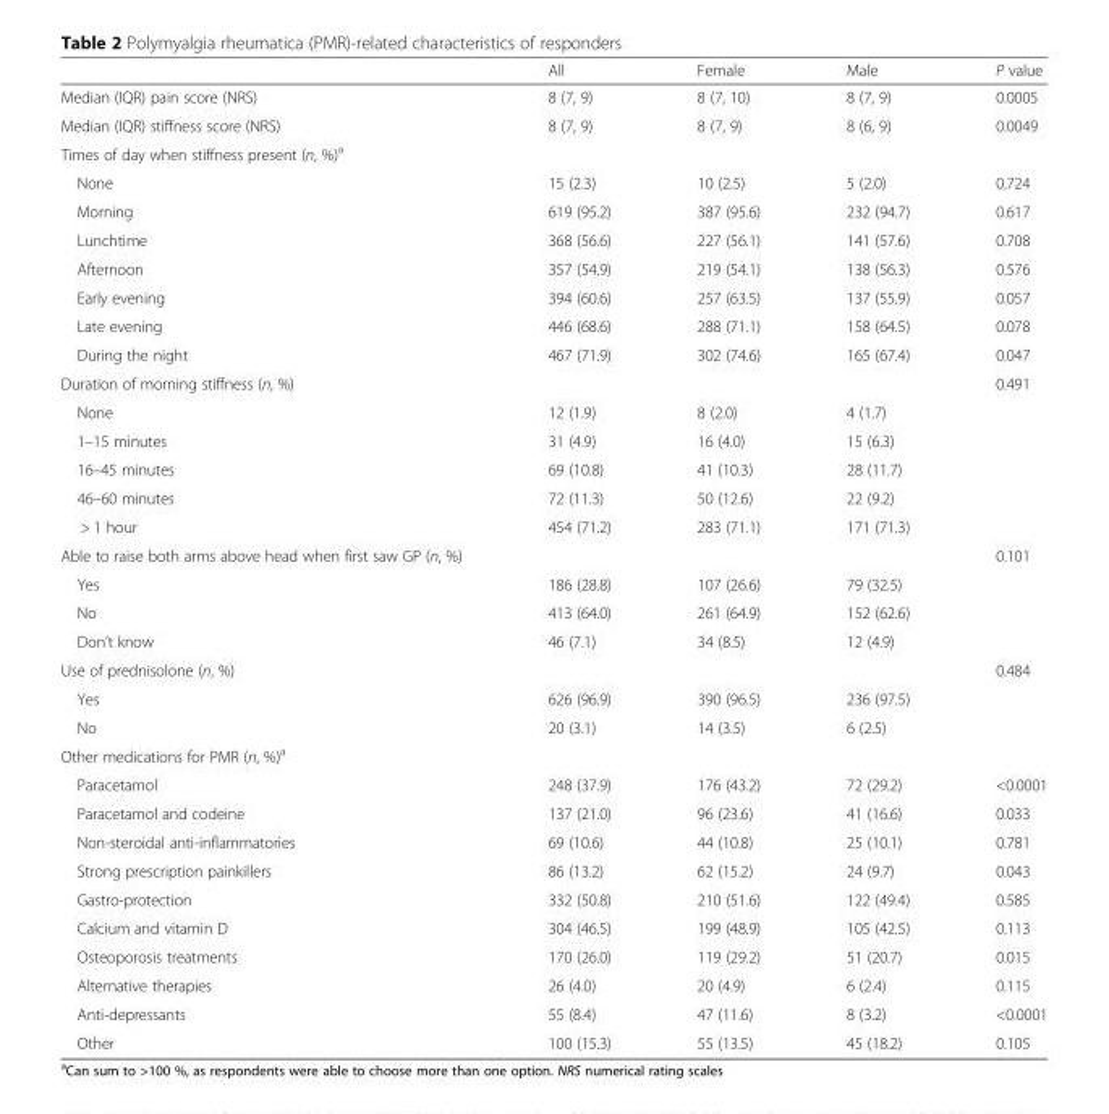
<table><thead><tr><td></td><td>All</td><td>Female</td><td>Male</td><td>P value</td></tr></thead><tbody><tr><td>Median (IQR) pain score (NRS)</td><td>8 (7, 9)</td><td>8 (7, 10)</td><td>8 (7, 9)</td><td>0.0005</td></tr><tr><td>Median (IQR) stiffness score (NRS)</td><td>8 (7, 9)</td><td>8 (7, 9)</td><td>8 (6, 9)</td><td>0.0049</td></tr><tr><td colspan="5">Times of day when stiffness present (n, %)<sup>a</sup></td></tr><tr><td>None</td><td>15 (2.3)</td><td>10 (2.5)</td><td>5 (2.0)</td><td>0.724</td></tr><tr><td>Morning</td><td>619 (95.2)</td><td>387 (95.6)</td><td>232 (94.7)</td><td>0.617</td></tr><tr><td>Lunchtime</td><td>368 (56.6)</td><td>227 (56.1)</td><td>141 (57.6)</td><td>0.708</td></tr><tr><td>Afternoon</td><td>357 (54.9)</td><td>219 (54.1)</td><td>138 (56.3)</td><td>0.576</td></tr><tr><td>Early evening</td><td>394 (60.6)</td><td>257 (63.5)</td><td>137 (55.9)</td><td>0.057</td></tr><tr><td>Late evening</td><td>446 (68.6)</td><td>288 (71.1)</td><td>158 (64.5)</td><td>0.078</td></tr><tr><td>During the night</td><td>467 (71.9)</td><td>302 (74.6)</td><td>165 (67.4)</td><td>0.047</td></tr><tr><td>Duration of morning stiffness (n, %)</td><td></td><td></td><td></td><td>0.491</td></tr><tr><td>None</td><td>12 (1.9)</td><td>8 (2.0)</td><td>4 (1.7)</td><td></td></tr><tr><td>1–15 minutes</td><td>31 (4.9)</td><td>16 (4.0)</td><td>15 (6.3)</td><td></td></tr><tr><td>16–45 minutes</td><td>69 (10.8)</td><td>41 (10.3)</td><td>28 (11.7)</td><td></td></tr><tr><td>46–60 minutes</td><td>72 (11.3)</td><td>50 (12.6)</td><td>22 (9.2)</td><td></td></tr><tr><td>&gt; 1 hour</td><td>454 (71.2)</td><td>283 (71.1)</td><td>171 (71.3)</td><td></td></tr><tr><td>Able to raise both arms above head when first saw GP (n, %)</td><td></td><td></td><td></td><td>0.101</td></tr><tr><td>Yes</td><td>186 (28.8)</td><td>107 (26.6)</td><td>79 (32.5)</td><td></td></tr><tr><td>No</td><td>413 (64.0)</td><td>261 (64.9)</td><td>152 (62.6)</td><td></td></tr><tr><td>Don’t know</td><td>46 (7.1)</td><td>34 (8.5)</td><td>12 (4.9)</td><td></td></tr><tr><td>Use of prednisolone (n, %)</td><td></td><td></td><td></td><td>0.484</td></tr><tr><td>Yes</td><td>626 (96.9)</td><td>390 (96.5)</td><td>236 (97.5)</td><td></td></tr><tr><td>No</td><td>20 (3.1)</td><td>14 (3.5)</td><td>6 (2.5)</td><td></td></tr><tr><td colspan="5">Other medications for PMR (n, %)<sup>a</sup></td></tr><tr><td>Paracetamol</td><td>248 (37.9)</td><td>176 (43.2)</td><td>72 (29.2)</td><td>&lt;0.0001</td></tr><tr><td>Paracetamol and codeine</td><td>137 (21.0)</td><td>96 (23.6)</td><td>41 (16.6)</td><td>0.033</td></tr><tr><td>Non-steroidal anti-inflammatories</td><td>69 (10.6)</td><td>44 (10.8)</td><td>25 (10.1)</td><td>0.781</td></tr><tr><td>Strong prescription painkillers</td><td>86 (13.2)</td><td>62 (15.2)</td><td>24 (9.7)</td><td>0.043</td></tr><tr><td>Gastro-protection</td><td>332 (50.8)</td><td>210 (51.6)</td><td>122 (49.4)</td><td>0.585</td></tr><tr><td>Calcium and vitamin D</td><td>304 (46.5)</td><td>199 (48.9)</td><td>105 (42.5)</td><td>0.113</td></tr><tr><td>Osteoporosis treatments</td><td>170 (26.0)</td><td>119 (29.2)</td><td>51 (20.7)</td><td>0.015</td></tr><tr><td>Alternative therapies</td><td>26 (4.0)</td><td>20 (4.9)</td><td>6 (2.4)</td><td>0.115</td></tr><tr><td>Anti-depressants</td><td>55 (8.4)</td><td>47 (11.6)</td><td>8 (3.2)</td><td>&lt;0.0001</td></tr><tr><td>Other</td><td>100 (15.3)</td><td>55 (13.5)</td><td>45 (18.2)</td><td>0.105</td></tr></tbody></table>